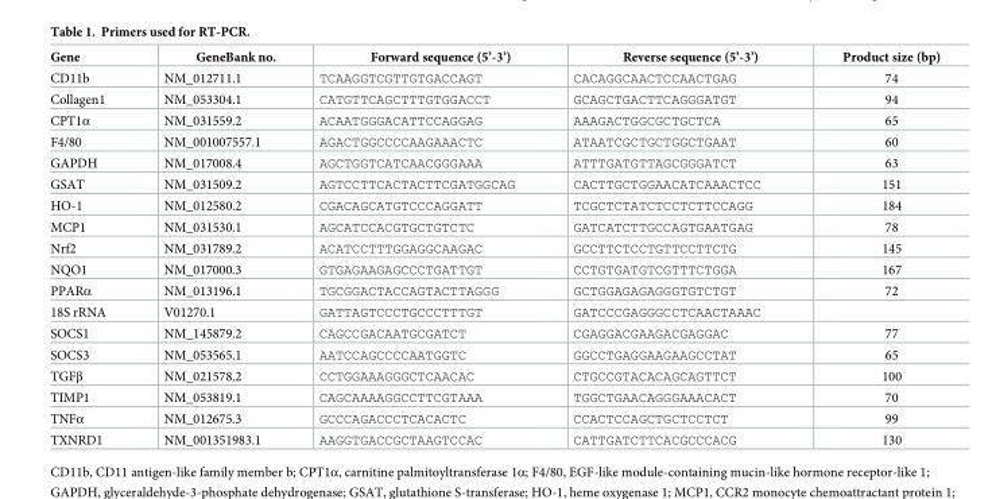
<table><thead><tr><td>Gene</td><td>GeneBank no.</td><td>Forward sequence (5’-3’)</td><td>Reverse sequence (5’-3’)</td><td>Product size (bp)</td></tr></thead><tbody><tr><td>CD11b</td><td>NM_012711.1</td><td>TCAAGGTCGTTGTGACCAGT</td><td>CACAGGCAACTCCAACTGAG</td><td>74</td></tr><tr><td>Collagen1</td><td>NM_053304.1</td><td>CATGTTCAGCTTTGTGGACCT</td><td>GCAGCTGACTTCAGGGATGT</td><td>94</td></tr><tr><td>CPT1α</td><td>NM_031559.2</td><td>ACAATGGGACATTCCAGGAG</td><td>AAAGACTGGCGCTGCTCA</td><td>65</td></tr><tr><td>F4/80</td><td>NM_001007557.1</td><td>AGACTGGCCCCAAGAAACTC</td><td>ATAATCGCTGCTGGCTGAAT</td><td>60</td></tr><tr><td>GAPDH</td><td>NM_017008.4</td><td>AGCTGGTCATCAACGGGAAA</td><td>ATTTGATGTTAGCGGGATCT</td><td>63</td></tr><tr><td>GSAT</td><td>NM_031509.2</td><td>AGTCCTTCACTACTTCGATGGCAG</td><td>CACTTGCTGGAACATCAAACTCC</td><td>151</td></tr><tr><td>HO-1</td><td>NM_012580.2</td><td>CGACAGCATGTCCCAGGATT</td><td>TCGCTCTATCTCCTCTTCCAGG</td><td>184</td></tr><tr><td>MCP1</td><td>NM_031530.1</td><td>AGCATCCACGTGCTGTCTC</td><td>GATCATCTTGCCAGTGAATGAG</td><td>78</td></tr><tr><td>Nrf2</td><td>NM_031789.2</td><td>ACATCCTTTGGAGGCAAGAC</td><td>GCCTTCTCCTGTTCCTTCTG</td><td>145</td></tr><tr><td>NQO1</td><td>NM_017000.3</td><td>GTGAGAAGAGCCCTGATTGT</td><td>CCTGTGATGTCGTTTCTGGA</td><td>167</td></tr><tr><td>PPARα</td><td>NM_013196.1</td><td>TGCGGACTACCAGTACTTAGGG</td><td>GCTGGAGAGAGGGTGTCTGT</td><td>72</td></tr><tr><td>18S rRNA</td><td>V01270.1</td><td>GATTAGTCCCTGCCCTTTGT</td><td>GATCCCGAGGGCCTCAACTAAAC</td><td></td></tr><tr><td>SOCS1</td><td>NM_145879.2</td><td>CAGCCGACAATGCGATCT</td><td>CGAGGACGAAGACGAGGAC</td><td>77</td></tr><tr><td>SOCS3</td><td>NM_053565.1</td><td>AATCCAGCCCCAATGGTC</td><td>GGCCTGAGGAAGAAGCCTAT</td><td>65</td></tr><tr><td>TGFβ</td><td>NM_021578.2</td><td>CCTGGAAAGGGCTCAACAC</td><td>CTGCCGTACACAGCAGTTCT</td><td>100</td></tr><tr><td>TIMP1</td><td>NM_053819.1</td><td>CAGCAAAAGGCCTTCGTAAA</td><td>TGGCTGAACAGGGAAACACT</td><td>70</td></tr><tr><td>TNFα</td><td>NM_012675.3</td><td>GCCCAGACCCTCACACTC</td><td>CCACTCCAGCTGCTCCTCT</td><td>99</td></tr><tr><td>TXNRD1</td><td>NM_001351983.1</td><td>AAGGTGACCGCTAAGTCCAC</td><td>CATTGATCTTCACGCCCACG</td><td>130</td></tr></tbody></table>